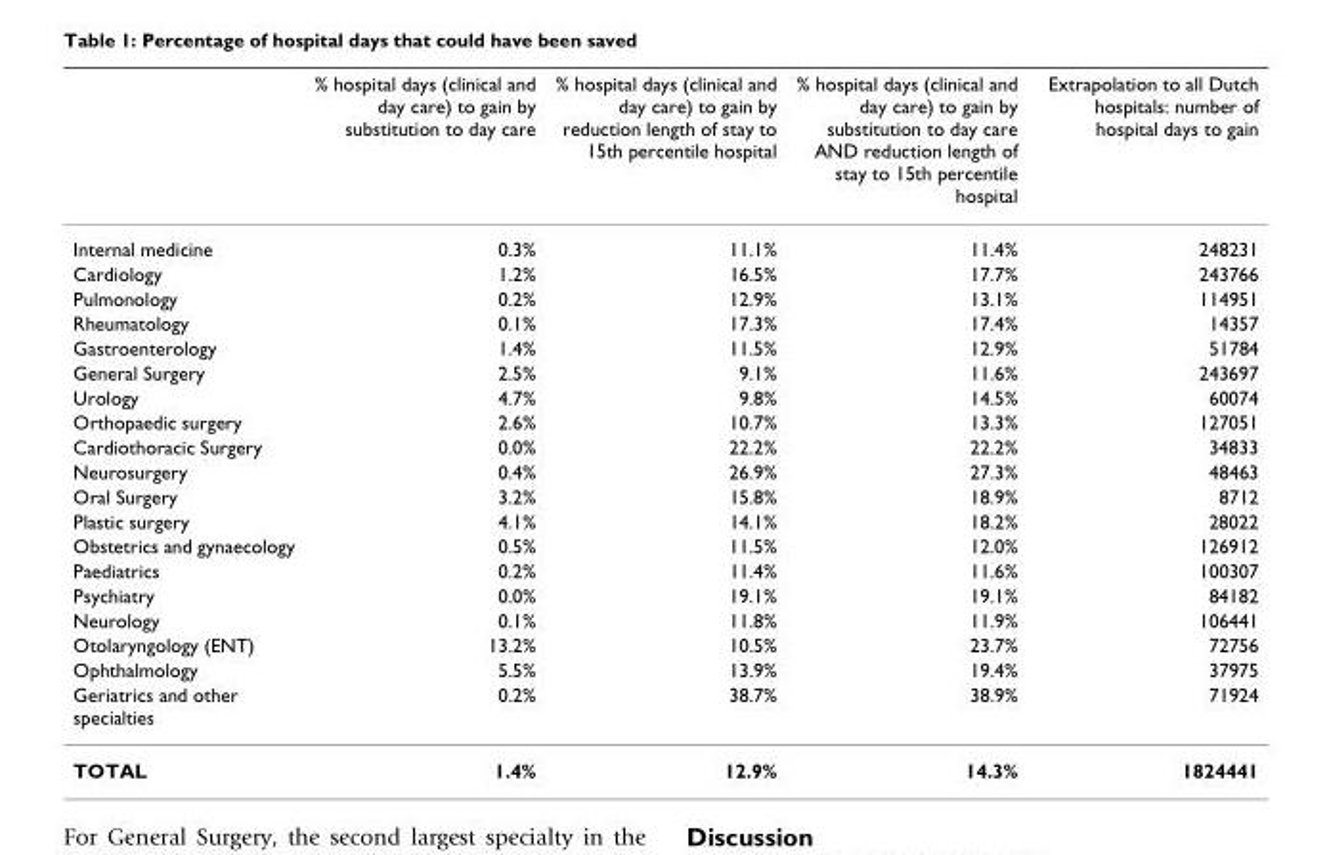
<table><thead><tr><td></td><td>% hospital days (clinical and day care) to gain by substitution to day care</td><td>% hospital days (clinical and day care) to gain by reduction length of stay to 15th percentile hospital</td><td>% hospital days (clinical and day care) to gain by substitution to day care AND reduction length of stay to 15th percentile hospital</td><td>Extrapolation to all Dutch hospitals: number of hospital days to gain</td></tr></thead><tbody><tr><td>Internal medicine</td><td>0.3%</td><td>11.1%</td><td>11.4%</td><td>248231</td></tr><tr><td>Cardiology</td><td>1.2%</td><td>16.5%</td><td>17.7%</td><td>243766</td></tr><tr><td>Pulmonology</td><td>0.2%</td><td>12.9%</td><td>13.1%</td><td>114951</td></tr><tr><td>Rheumatology</td><td>0.1%</td><td>17.3%</td><td>17.4%</td><td>14357</td></tr><tr><td>Gastroenterology</td><td>1.4%</td><td>11.5%</td><td>12.9%</td><td>51784</td></tr><tr><td>General Surgery</td><td>2.5%</td><td>9.1%</td><td>11.6%</td><td>243697</td></tr><tr><td>Urology</td><td>4.7%</td><td>9.8%</td><td>14.5%</td><td>60074</td></tr><tr><td>Orthopaedic surgery</td><td>2.6%</td><td>10.7%</td><td>13.3%</td><td>127051</td></tr><tr><td>Cardiothoracic Surgery</td><td>0.0%</td><td>22.2%</td><td>22.2%</td><td>34833</td></tr><tr><td>Neurosurgery</td><td>0.4%</td><td>26.9%</td><td>27.3%</td><td>48463</td></tr><tr><td>Oral Surgery</td><td>3.2%</td><td>15.8%</td><td>18.9%</td><td>8712</td></tr><tr><td>Plastic surgery</td><td>4.1%</td><td>14.1%</td><td>18.2%</td><td>28022</td></tr><tr><td>Obstetrics and gynaecology</td><td>0.5%</td><td>11.5%</td><td>12.0%</td><td>126912</td></tr><tr><td>Paediatrics</td><td>0.2%</td><td>11.4%</td><td>11.6%</td><td>100307</td></tr><tr><td>Psychiatry</td><td>0.0%</td><td>19.1%</td><td>19.1%</td><td>84182</td></tr><tr><td>Neurology</td><td>0.1%</td><td>11.8%</td><td>11.9%</td><td>106441</td></tr><tr><td>Otolaryngology (ENT)</td><td>13.2%</td><td>10.5%</td><td>23.7%</td><td>72756</td></tr><tr><td>Ophthalmology</td><td>5.5%</td><td>13.9%</td><td>19.4%</td><td>37975</td></tr><tr><td>Geriatrics and other specialties</td><td>0.2%</td><td>38.7%</td><td>38.9%</td><td>71924</td></tr><tr><td>TOTAL</td><td>1.4%</td><td>12.9%</td><td>14.3%</td><td>1824441</td></tr></tbody></table>